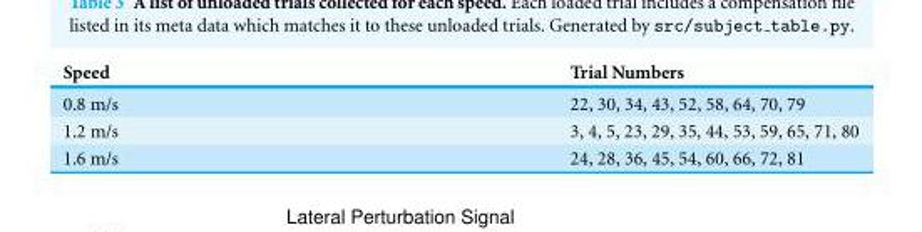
<table><thead><tr><td>Speed</td><td>Trial Numbers</td></tr></thead><tbody><tr><td>0.8 m/s</td><td>22, 30, 34, 43, 52, 58, 64, 70, 79</td></tr><tr><td>1.2 m/s</td><td>3, 4, 5, 23, 29, 35, 44, 53, 59, 65, 71, 80</td></tr><tr><td>1.6 m/s</td><td>24, 28, 36, 45, 54, 60, 66, 72, 81</td></tr></tbody></table>